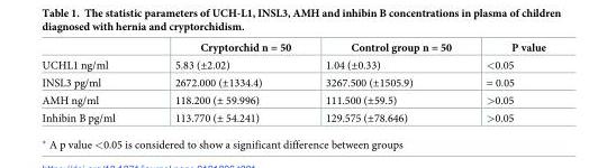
<table><thead><tr><td></td><td>Cryptorchid n = 50</td><td>Control group n = 50</td><td>P value</td></tr></thead><tbody><tr><td>UCHL1 ng/ml</td><td>5.83 (±2.02)</td><td>1.04 (±0.33)</td><td>&lt;0.05</td></tr><tr><td>INSL3 pg/ml</td><td>2672.000 (±1334.4)</td><td>3267.500 (±1505.9)</td><td>= 0.05</td></tr><tr><td>AMH ng/ml</td><td>118.200 (± 59.996)</td><td>111.500 (±59.5)</td><td>&gt;0.05</td></tr><tr><td>Inhibin B pg/ml</td><td>113.770 (± 54.241)</td><td>129.575 (±78.646)</td><td>&gt;0.05</td></tr></tbody></table>